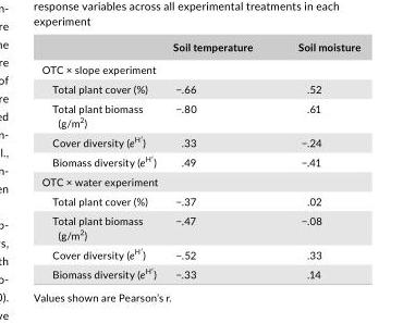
<table><thead><tr><td></td><td>Soil temperature</td><td>Soil moisture</td></tr></thead><tbody><tr><td colspan="3">OTC × slope experiment</td></tr><tr><td>Total plant cover (%)</td><td>−.66</td><td>.52</td></tr><tr><td>Total plant biomass (g/m<sup>2</sup>)</td><td>−.80</td><td>.61</td></tr><tr><td>Cover diversity (e<sup>H′</sup>)</td><td>.33</td><td>−.24</td></tr><tr><td>Biomass diversity (e<sup>H′</sup>)</td><td>.49</td><td>−.41</td></tr><tr><td colspan="3">OTC × water experiment</td></tr><tr><td>Total plant cover (%)</td><td>−.37</td><td>.02</td></tr><tr><td>Total plant biomass (g/m<sup>2</sup>)</td><td>−.47</td><td>−.08</td></tr><tr><td>Cover diversity (e<sup>H′</sup>)</td><td>−.52</td><td>.33</td></tr><tr><td>Biomass diversity (e<sup>H′</sup>)</td><td>−.33</td><td>.14</td></tr></tbody></table>